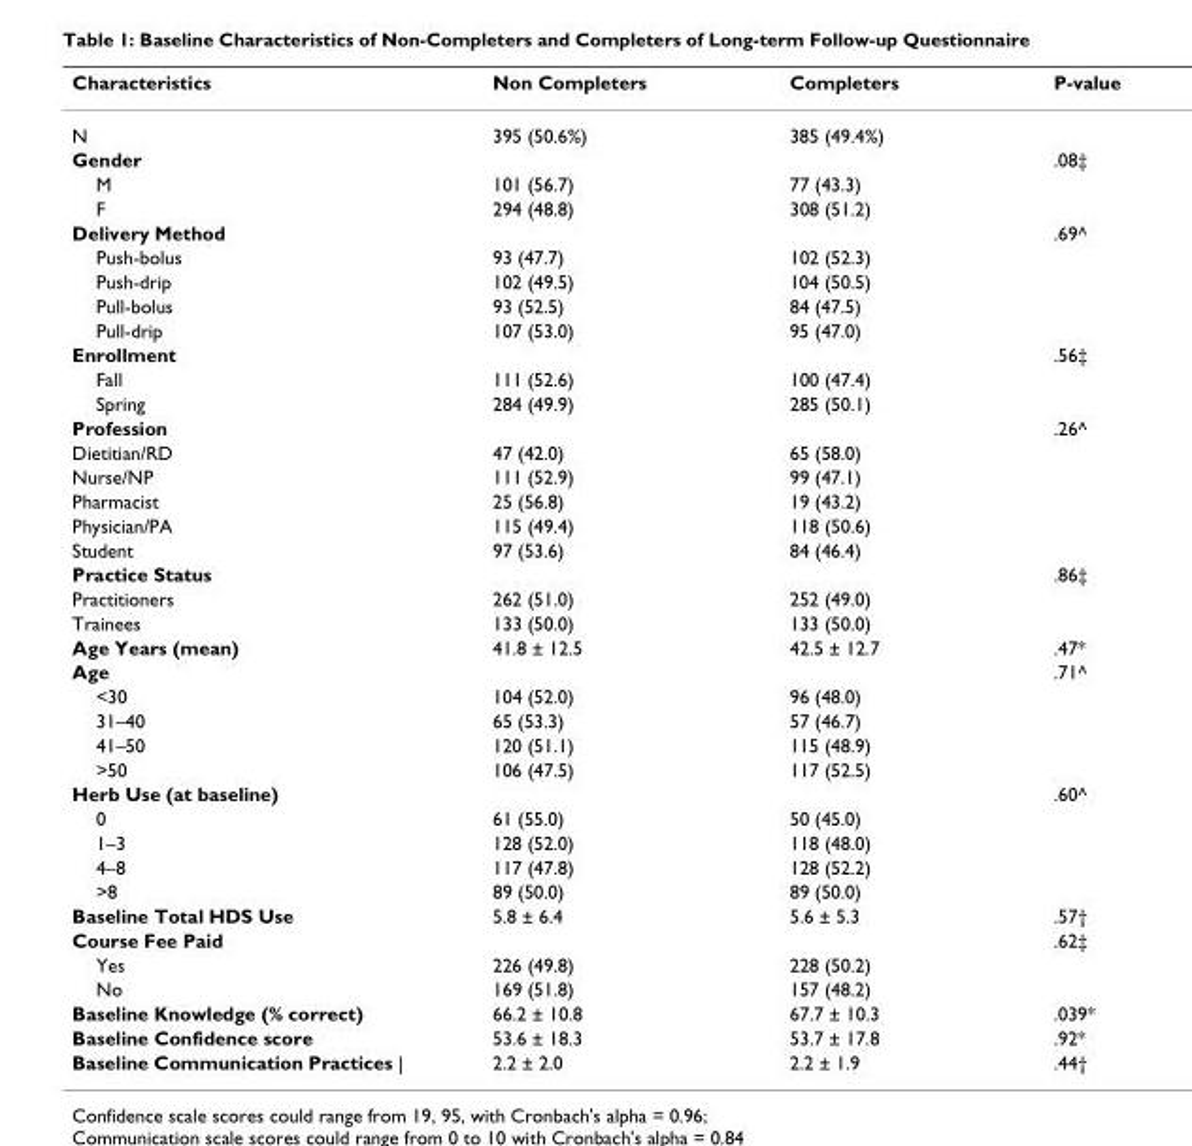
<table><thead><tr><td>Characteristics</td><td>Non Completers</td><td>Completers</td><td>P-value</td></tr></thead><tbody><tr><td>N</td><td>395 (50.6%)</td><td>385 (49.4%)</td><td></td></tr><tr><td>Gender</td><td></td><td></td><td>.08‡</td></tr><tr><td>M</td><td>101 (56.7)</td><td>77 (43.3)</td><td></td></tr><tr><td>F</td><td>294 (48.8)</td><td>308 (51.2)</td><td></td></tr><tr><td>Delivery Method</td><td></td><td></td><td>.69^</td></tr><tr><td>Push-bolus</td><td>93 (47.7)</td><td>102 (52.3)</td><td></td></tr><tr><td>Push-drip</td><td>102 (49.5)</td><td>104 (50.5)</td><td></td></tr><tr><td>Pull-bolus</td><td>93 (52.5)</td><td>84 (47.5)</td><td></td></tr><tr><td>Pull-drip</td><td>107 (53.0)</td><td>95 (47.0)</td><td></td></tr><tr><td>Enrollment</td><td></td><td></td><td>.56‡</td></tr><tr><td>Fall</td><td>111 (52.6)</td><td>100 (47.4)</td><td></td></tr><tr><td>Spring</td><td>284 (49.9)</td><td>285 (50.1)</td><td></td></tr><tr><td>Profession</td><td></td><td></td><td>.26^</td></tr><tr><td>Dietitian/RD</td><td>47 (42.0)</td><td>65 (58.0)</td><td></td></tr><tr><td>Nurse/NP</td><td>111 (52.9)</td><td>99 (47.1)</td><td></td></tr><tr><td>Pharmacist</td><td>25 (56.8)</td><td>19 (43.2)</td><td></td></tr><tr><td>Physician/PA</td><td>115 (49.4)</td><td>118 (50.6)</td><td></td></tr><tr><td>Student</td><td>97 (53.6)</td><td>84 (46.4)</td><td></td></tr><tr><td>Practice Status</td><td></td><td></td><td>.86‡</td></tr><tr><td>Practitioners</td><td>262 (51.0)</td><td>252 (49.0)</td><td></td></tr><tr><td>Trainees</td><td>133 (50.0)</td><td>133 (50.0)</td><td></td></tr><tr><td>Age Years (mean)</td><td>41.8 ± 12.5</td><td>42.5 ± 12.7</td><td>.47*</td></tr><tr><td>Age</td><td></td><td></td><td>.71^</td></tr><tr><td>&lt;30</td><td>104 (52.0)</td><td>96 (48.0)</td><td></td></tr><tr><td>31–40</td><td>65 (53.3)</td><td>57 (46.7)</td><td></td></tr><tr><td>41–50</td><td>120 (51.1)</td><td>115 (48.9)</td><td></td></tr><tr><td>&gt;50</td><td>106 (47.5)</td><td>117 (52.5)</td><td></td></tr><tr><td>Herb Use (at baseline)</td><td></td><td></td><td>.60^</td></tr><tr><td>0</td><td>61 (55.0)</td><td>50 (45.0)</td><td></td></tr><tr><td>1–3</td><td>128 (52.0)</td><td>118 (48.0)</td><td></td></tr><tr><td>4–8</td><td>117 (47.8)</td><td>128 (52.2)</td><td></td></tr><tr><td>&gt;8</td><td>89 (50.0)</td><td>89 (50.0)</td><td></td></tr><tr><td>Baseline Total HDS Use</td><td>5.8 ± 6.4</td><td>5.6 ± 5.3</td><td>.57†</td></tr><tr><td>Course Fee Paid</td><td></td><td></td><td>.62‡</td></tr><tr><td>Yes</td><td>226 (49.8)</td><td>228 (50.2)</td><td></td></tr><tr><td>No</td><td>169 (51.8)</td><td>157 (48.2)</td><td></td></tr><tr><td>Baseline Knowledge (% correct)</td><td>66.2 ± 10.8</td><td>67.7 ± 10.3</td><td>.039*</td></tr><tr><td>Baseline Confidence score</td><td>53.6 ± 18.3</td><td>53.7 ± 17.8</td><td>.92*</td></tr><tr><td>Baseline Communication Practices |</td><td>2.2 ± 2.0</td><td>2.2 ± 1.9</td><td>.44†</td></tr></tbody></table>